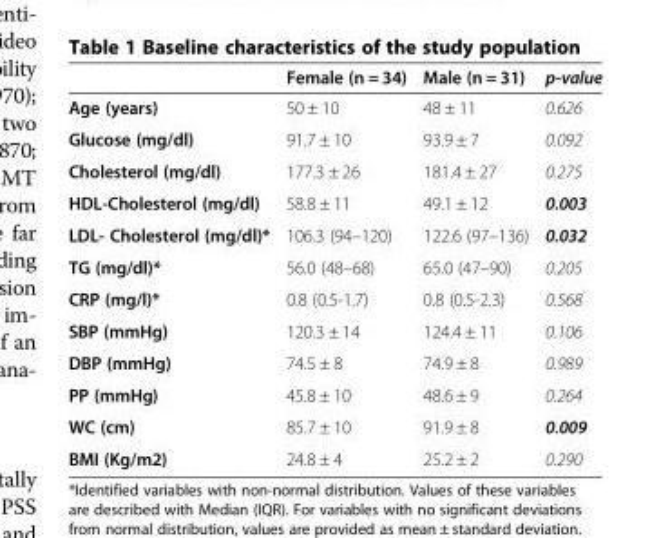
<table><thead><tr><td></td><td>Female (n = 34)</td><td>Male (n = 31)</td><td>p-value</td></tr></thead><tbody><tr><td>Age (years)</td><td>50 ± 10</td><td>48 ± 11</td><td>0.626</td></tr><tr><td>Glucose (mg/dl)</td><td>91.7 ± 10</td><td>93.9 ± 7</td><td>0.092</td></tr><tr><td>Cholesterol (mg/dl)</td><td>177.3 ± 26</td><td>181.4 ± 27</td><td>0.275</td></tr><tr><td>HDL-Cholesterol (mg/dl)</td><td>58.8 ± 11</td><td>49.1 ± 12</td><td>0.003</td></tr><tr><td>LDL- Cholesterol (mg/dl)*</td><td>106.3 (94–120)</td><td>122.6 (97–136)</td><td>0.032</td></tr><tr><td>TG (mg/dl)*</td><td>56.0 (48–68)</td><td>65.0 (47–90)</td><td>0.205</td></tr><tr><td>CRP (mg/l)*</td><td>0.8 (0.5-1.7)</td><td>0.8 (0.5-2.3)</td><td>0.568</td></tr><tr><td>SBP (mmHg)</td><td>120.3 ± 14</td><td>124.4 ± 11</td><td>0.106</td></tr><tr><td>DBP (mmHg)</td><td>74.5 ± 8</td><td>74.9 ± 8</td><td>0.989</td></tr><tr><td>PP (mmHg)</td><td>45.8 ± 10</td><td>48.6 ± 9</td><td>0.264</td></tr><tr><td>WC (cm)</td><td>85.7 ± 10</td><td>91.9 ± 8</td><td>0.009</td></tr><tr><td>BMI (Kg/m2)</td><td>24.8 ± 4</td><td>25.2 ± 2</td><td>0.290</td></tr></tbody></table>